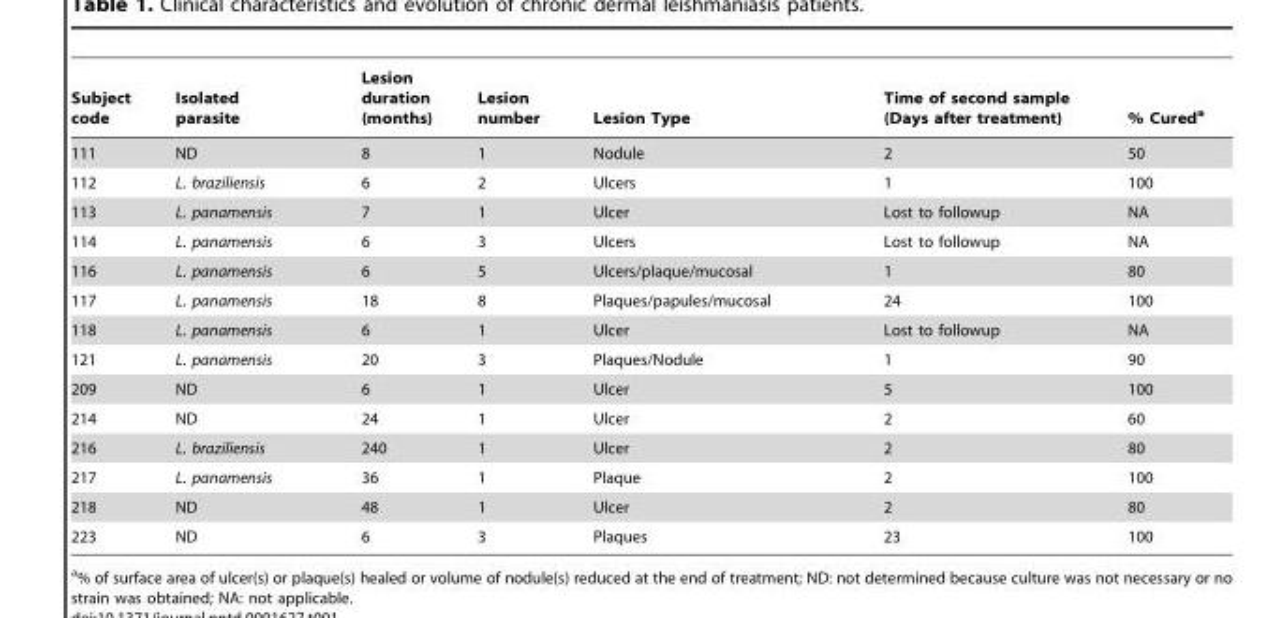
<table><thead><tr><td>Subject code</td><td>Isolated parasite</td><td>Lesion duration (months)</td><td>Lesion number</td><td>Lesion Type</td><td>Time of second sample (Days after treatment)</td><td>% Cured<sup>a</sup></td></tr></thead><tbody><tr><td>111</td><td>ND</td><td>8</td><td>1</td><td>Nodule</td><td>2</td><td>50</td></tr><tr><td>112</td><td>L. braziliensis</td><td>6</td><td>2</td><td>Ulcers</td><td>1</td><td>100</td></tr><tr><td>113</td><td>L. panamensis</td><td>7</td><td>1</td><td>Ulcer</td><td>Lost to followup</td><td>NA</td></tr><tr><td>114</td><td>L. panamensis</td><td>6</td><td>3</td><td>Ulcers</td><td>Lost to followup</td><td>NA</td></tr><tr><td>116</td><td>L. panamensis</td><td>6</td><td>5</td><td>Ulcers/plaque/mucosal</td><td>1</td><td>80</td></tr><tr><td>117</td><td>L. panamensis</td><td>18</td><td>8</td><td>Plaques/papules/mucosal</td><td>24</td><td>100</td></tr><tr><td>118</td><td>L. panamensis</td><td>6</td><td>1</td><td>Ulcer</td><td>Lost to followup</td><td>NA</td></tr><tr><td>121</td><td>L. panamensis</td><td>20</td><td>3</td><td>Plaques/Nodule</td><td>1</td><td>90</td></tr><tr><td>209</td><td>ND</td><td>6</td><td>1</td><td>Ulcer</td><td>5</td><td>100</td></tr><tr><td>214</td><td>ND</td><td>24</td><td>1</td><td>Ulcer</td><td>2</td><td>60</td></tr><tr><td>216</td><td>L. braziliensis</td><td>240</td><td>1</td><td>Ulcer</td><td>2</td><td>80</td></tr><tr><td>217</td><td>L. panamensis</td><td>36</td><td>1</td><td>Plaque</td><td>2</td><td>100</td></tr><tr><td>218</td><td>ND</td><td>48</td><td>1</td><td>Ulcer</td><td>2</td><td>80</td></tr><tr><td>223</td><td>ND</td><td>6</td><td>3</td><td>Plaques</td><td>23</td><td>100</td></tr></tbody></table>